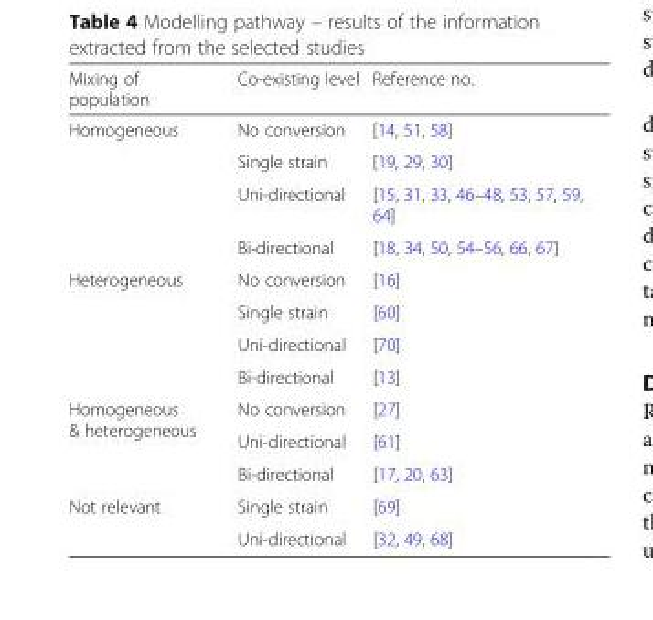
<table><thead><tr><td>Mixing of population</td><td>Co-existing level</td><td>Reference no.</td></tr></thead><tbody><tr><td rowspan="4">Homogeneous</td><td>No conversion</td><td>[14, 51, 58]</td></tr><tr><td>Single strain</td><td>[19, 29, 30]</td></tr><tr><td>Uni-directional</td><td>[15, 31, 33, 46–48, 53, 57, 59, 64]</td></tr><tr><td>Bi-directional</td><td>[18, 34, 50, 54–56, 66, 67]</td></tr><tr><td rowspan="4">Heterogeneous</td><td>No conversion</td><td>[16]</td></tr><tr><td>Single strain</td><td>[60]</td></tr><tr><td>Uni-directional</td><td>[70]</td></tr><tr><td>Bi-directional</td><td>[13]</td></tr><tr><td rowspan="3">Homogeneous &amp; heterogeneous</td><td>No conversion</td><td>[27]</td></tr><tr><td>Uni-directional</td><td>[61]</td></tr><tr><td>Bi-directional</td><td>[17, 20, 63]</td></tr><tr><td rowspan="2">Not relevant</td><td>Single strain</td><td>[69]</td></tr><tr><td>Uni-directional</td><td>[32, 49, 68]</td></tr></tbody></table>